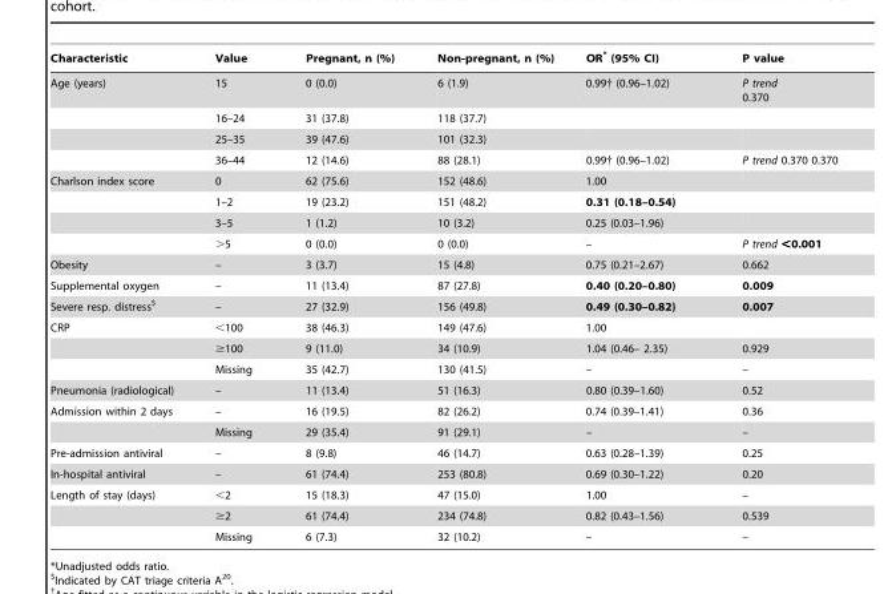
<table><thead><tr><td>Characteristic</td><td>Value</td><td>Pregnant, n (%)</td><td>Non-pregnant, n (%)</td><td>OR* (95% CI)</td><td>P value</td></tr></thead><tbody><tr><td rowspan="4">Age (years)</td><td>15</td><td>0 (0.0)</td><td>6 (1.9)</td><td>0.99† (0.96–1.02)</td><td>P trend 0.370</td></tr><tr><td>16–24</td><td>31 (37.8)</td><td>118 (37.7)</td><td></td><td></td></tr><tr><td>25–35</td><td>39 (47.6)</td><td>101 (32.3)</td><td></td><td></td></tr><tr><td>36–44</td><td>12 (14.6)</td><td>88 (28.1)</td><td>0.99† (0.96–1.02)</td><td>P trend 0.370 0.370</td></tr><tr><td rowspan="4">Charlson index score</td><td>0</td><td>62 (75.6)</td><td>152 (48.6)</td><td>1.00</td><td></td></tr><tr><td>1–2</td><td>19 (23.2)</td><td>151 (48.2)</td><td>0.31 (0.18–0.54)</td><td></td></tr><tr><td>3–5</td><td>1 (1.2)</td><td>10 (3.2)</td><td>0.25 (0.03–1.96)</td><td></td></tr><tr><td>&gt;5</td><td>0 (0.0)</td><td>0 (0.0)</td><td>–</td><td>P trend &lt;0.001</td></tr><tr><td>Obesity</td><td>–</td><td>3 (3.7)</td><td>15 (4.8)</td><td>0.75 (0.21–2.67)</td><td>0.662</td></tr><tr><td>Supplemental oxygen</td><td>–</td><td>11 (13.4)</td><td>87 (27.8)</td><td>0.40 (0.20–0.80)</td><td>0.009</td></tr><tr><td>Severe resp. distress$</td><td>–</td><td>27 (32.9)</td><td>156 (49.8)</td><td>0.49 (0.30–0.82)</td><td>0.007</td></tr><tr><td rowspan="3">CRP</td><td>&lt;100</td><td>38 (46.3)</td><td>149 (47.6)</td><td>1.00</td><td></td></tr><tr><td>≥100</td><td>9 (11.0)</td><td>34 (10.9)</td><td>1.04 (0.46– 2.35)</td><td>0.929</td></tr><tr><td>Missing</td><td>35 (42.7)</td><td>130 (41.5)</td><td>–</td><td>–</td></tr><tr><td>Pneumonia (radiological)</td><td>–</td><td>11 (13.4)</td><td>51 (16.3)</td><td>0.80 (0.39–1.60)</td><td>0.52</td></tr><tr><td rowspan="2">Admission within 2 days</td><td>–</td><td>16 (19.5)</td><td>82 (26.2)</td><td>0.74 (0.39–1.41)</td><td>0.36</td></tr><tr><td>Missing</td><td>29 (35.4)</td><td>91 (29.1)</td><td>–</td><td>–</td></tr><tr><td>Pre-admission antiviral</td><td>–</td><td>8 (9.8)</td><td>46 (14.7)</td><td>0.63 (0.28–1.39)</td><td>0.25</td></tr><tr><td>In-hospital antiviral</td><td>–</td><td>61 (74.4)</td><td>253 (80.8)</td><td>0.69 (0.30–1.22)</td><td>0.20</td></tr><tr><td rowspan="3">Length of stay (days)</td><td>&lt;2</td><td>15 (18.3)</td><td>47 (15.0)</td><td>1.00</td><td>–</td></tr><tr><td>≥2</td><td>61 (74.4)</td><td>234 (74.8)</td><td>0.82 (0.43–1.56)</td><td>0.539</td></tr><tr><td>Missing</td><td>6 (7.3)</td><td>32 (10.2)</td><td>–</td><td>–</td></tr></tbody></table>